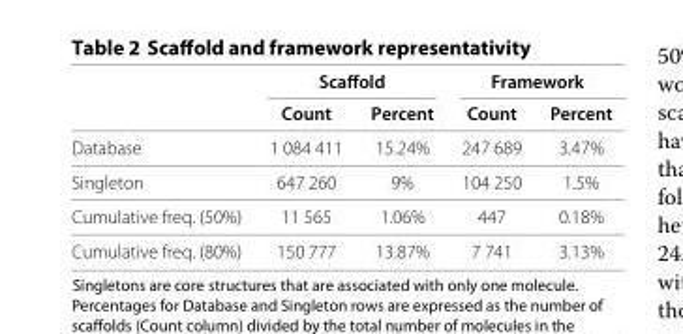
<table><thead><tr><td rowspan="2"></td><td colspan="2">Scaffold</td><td colspan="2">Framework</td></tr><tr><td>Count</td><td>Percent</td><td>Count</td><td>Percent</td></tr></thead><tbody><tr><td>Database</td><td>1 084 411</td><td>15.24%</td><td>247 689</td><td>3.47%</td></tr><tr><td>Singleton</td><td>647 260</td><td>9%</td><td>104 250</td><td>1.5%</td></tr><tr><td>Cumulative freq. (50%)</td><td>11 565</td><td>1.06%</td><td>447</td><td>0.18%</td></tr><tr><td>Cumulative freq. (80%)</td><td>150 777</td><td>13.87%</td><td>7 741</td><td>3.13%</td></tr></tbody></table>